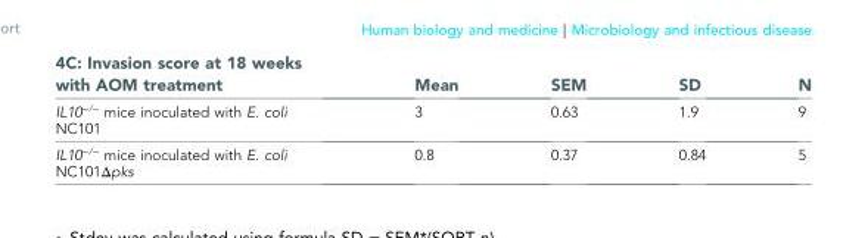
<table><thead><tr><td>4C: Invasion score at 18 weeks with AOM treatment</td><td>Mean</td><td>SEM</td><td>SD</td><td>N</td></tr></thead><tbody><tr><td>IL10<sup>−/−</sup> mice inoculated with E. coli NC101</td><td>3</td><td>0.63</td><td>1.9</td><td>9</td></tr><tr><td>IL10<sup>−/−</sup> mice inoculated with E. coli NC101Δpks</td><td>0.8</td><td>0.37</td><td>0.84</td><td>5</td></tr></tbody></table>